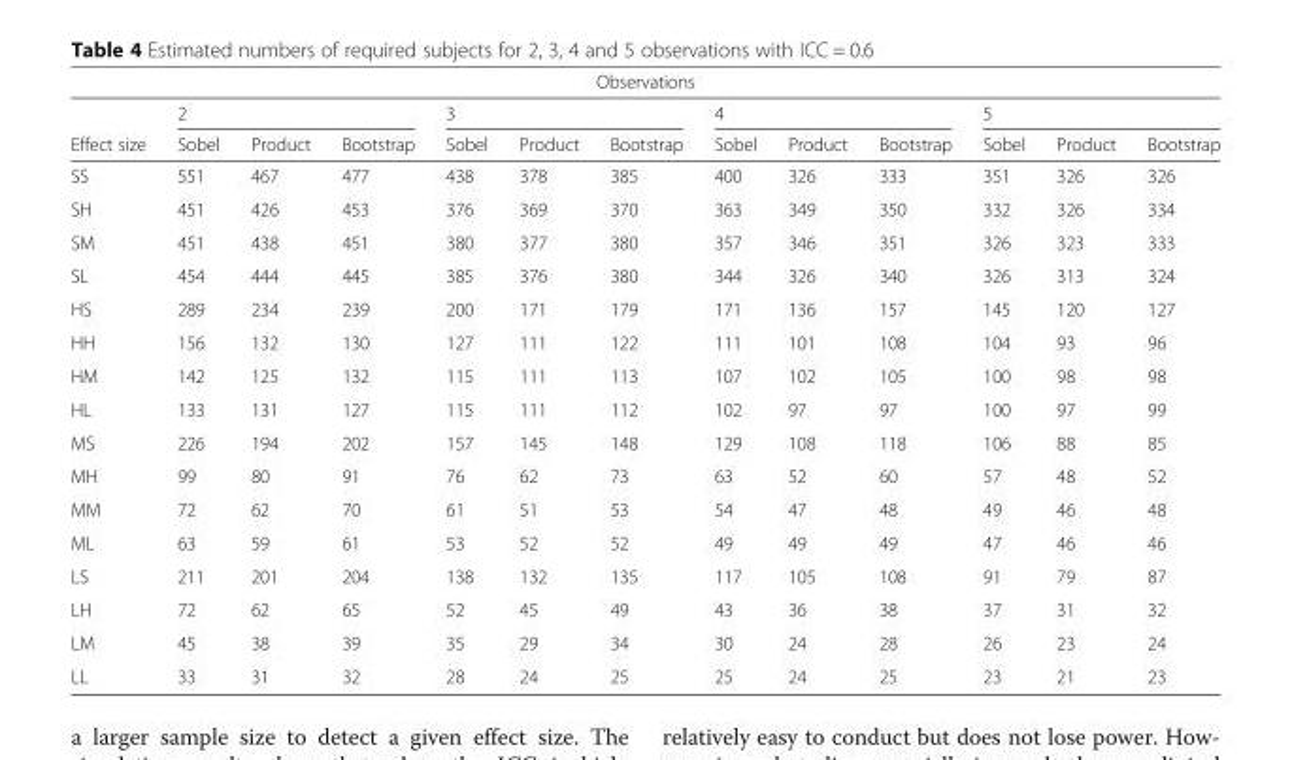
<table><thead><tr><td colspan="13">Observations</td></tr><tr><td rowspan="2">Effect size</td><td colspan="3">2</td><td colspan="3">3</td><td colspan="3">4</td><td colspan="3">5</td></tr><tr><td>Sobel</td><td>Product</td><td>Bootstrap</td><td>Sobel</td><td>Product</td><td>Bootstrap</td><td>Sobel</td><td>Product</td><td>Bootstrap</td><td>Sobel</td><td>Product</td><td>Bootstrap</td></tr></thead><tbody><tr><td>SS</td><td>551</td><td>467</td><td>477</td><td>438</td><td>378</td><td>385</td><td>400</td><td>326</td><td>333</td><td>351</td><td>326</td><td>326</td></tr><tr><td>SH</td><td>451</td><td>426</td><td>453</td><td>376</td><td>369</td><td>370</td><td>363</td><td>349</td><td>350</td><td>332</td><td>326</td><td>334</td></tr><tr><td>SM</td><td>451</td><td>438</td><td>451</td><td>380</td><td>377</td><td>380</td><td>357</td><td>346</td><td>351</td><td>326</td><td>323</td><td>333</td></tr><tr><td>SL</td><td>454</td><td>444</td><td>445</td><td>385</td><td>376</td><td>380</td><td>344</td><td>326</td><td>340</td><td>326</td><td>313</td><td>324</td></tr><tr><td>HS</td><td>289</td><td>234</td><td>239</td><td>200</td><td>171</td><td>179</td><td>171</td><td>136</td><td>157</td><td>145</td><td>120</td><td>127</td></tr><tr><td>HH</td><td>156</td><td>132</td><td>130</td><td>127</td><td>111</td><td>122</td><td>111</td><td>101</td><td>108</td><td>104</td><td>93</td><td>96</td></tr><tr><td>HM</td><td>142</td><td>125</td><td>132</td><td>115</td><td>111</td><td>113</td><td>107</td><td>102</td><td>105</td><td>100</td><td>98</td><td>98</td></tr><tr><td>HL</td><td>133</td><td>131</td><td>127</td><td>115</td><td>111</td><td>112</td><td>102</td><td>97</td><td>97</td><td>100</td><td>97</td><td>99</td></tr><tr><td>MS</td><td>226</td><td>194</td><td>202</td><td>157</td><td>145</td><td>148</td><td>129</td><td>108</td><td>118</td><td>106</td><td>88</td><td>85</td></tr><tr><td>MH</td><td>99</td><td>80</td><td>91</td><td>76</td><td>62</td><td>73</td><td>63</td><td>52</td><td>60</td><td>57</td><td>48</td><td>52</td></tr><tr><td>MM</td><td>72</td><td>62</td><td>70</td><td>61</td><td>51</td><td>53</td><td>54</td><td>47</td><td>48</td><td>49</td><td>46</td><td>48</td></tr><tr><td>ML</td><td>63</td><td>59</td><td>61</td><td>53</td><td>52</td><td>52</td><td>49</td><td>49</td><td>49</td><td>47</td><td>46</td><td>46</td></tr><tr><td>LS</td><td>211</td><td>201</td><td>204</td><td>138</td><td>132</td><td>135</td><td>117</td><td>105</td><td>108</td><td>91</td><td>79</td><td>87</td></tr><tr><td>LH</td><td>72</td><td>62</td><td>65</td><td>52</td><td>45</td><td>49</td><td>43</td><td>36</td><td>38</td><td>37</td><td>31</td><td>32</td></tr><tr><td>LM</td><td>45</td><td>38</td><td>39</td><td>35</td><td>29</td><td>34</td><td>30</td><td>24</td><td>28</td><td>26</td><td>23</td><td>24</td></tr><tr><td>LL</td><td>33</td><td>31</td><td>32</td><td>28</td><td>24</td><td>25</td><td>25</td><td>24</td><td>25</td><td>23</td><td>21</td><td>23</td></tr></tbody></table>